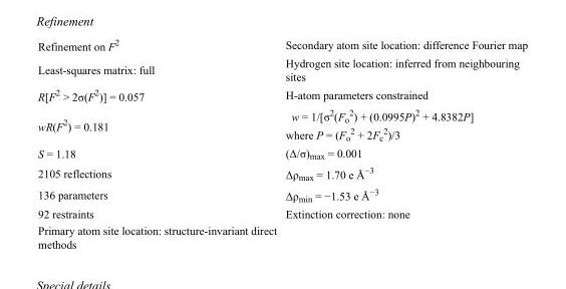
<table><tbody><tr><td>Refinement on F<sup>2</sup></td><td>Secondary atom site location: difference Fourier map</td></tr><tr><td>Least-squares matrix: full</td><td>Hydrogen site location: inferred from neighbouring sites</td></tr><tr><td>R[F<sup>2</sup> &gt; 2σ(F<sup>2</sup>)] = 0.057</td><td>H-atom parameters constrained</td></tr><tr><td>wR(F<sup>2</sup>) = 0.181</td><td>w = 1/[σ<sup>2</sup>(F<sub>o</sub> <sup>2</sup>) + (0.0995P)<sup>2</sup> + 4.8382P] where P = (F<sub>o</sub> <sup>2</sup> + 2F<sub>c</sub> <sup>2</sup>)/3</td></tr><tr><td>S = 1.18</td><td>(Δ/σ)<sub>max</sub> = 0.001</td></tr><tr><td>2105 reflections</td><td>Δρ<sub>max</sub> = 1.70 e Å<sup>−3</sup></td></tr><tr><td>136 parameters</td><td>Δρ<sub>min</sub> = −1.53 e Å<sup>−3</sup></td></tr><tr><td>92 restraints</td><td>Extinction correction: none</td></tr><tr><td>Primary atom site location: structure-invariant direct methods</td><td></td></tr></tbody></table>